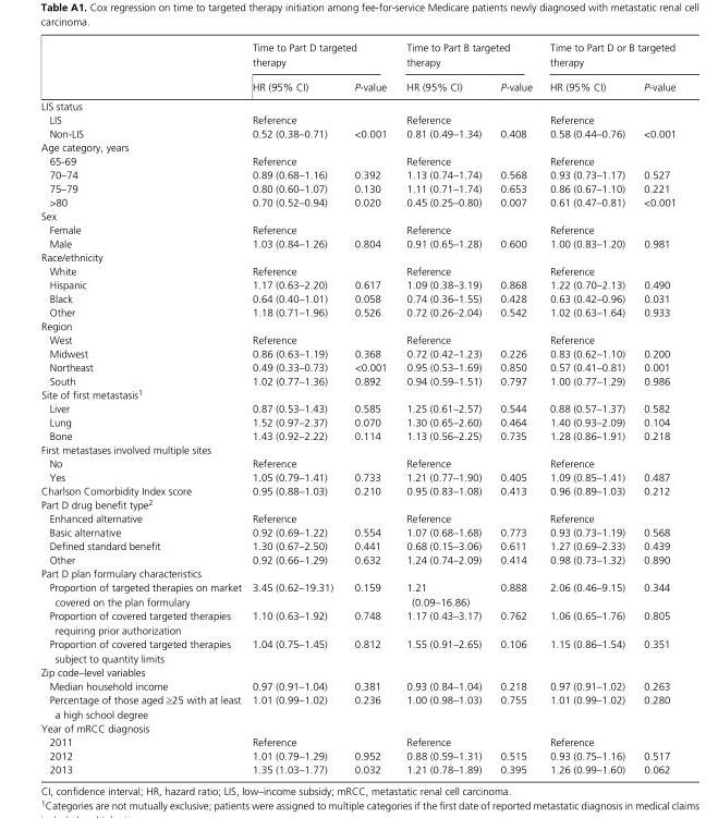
<table><thead><tr><td rowspan="2"></td><td colspan="2">Time to Part D targeted therapy</td><td colspan="2">Time to Part B targeted therapy</td><td colspan="2">Time to Part D or B targeted therapy</td></tr><tr><td>HR (95% CI)</td><td>P-value</td><td>HR (95% CI)</td><td>P-value</td><td>HR (95% CI)</td><td>P-value</td></tr></thead><tbody><tr><td colspan="7">LIS status</td></tr><tr><td>LIS</td><td>Reference</td><td></td><td>Reference</td><td></td><td>Reference</td><td></td></tr><tr><td>Non- LIS</td><td>0.52 (0.38–0.71)</td><td>&lt;0.001</td><td>0.81 (0.49–1.34)</td><td>0.408</td><td>0.58 (0.44–0.76)</td><td>&lt;0.001</td></tr><tr><td colspan="7">Age category, years</td></tr><tr><td>65-69</td><td>Reference</td><td></td><td>Reference</td><td></td><td>Reference</td><td></td></tr><tr><td>70–74</td><td>0.89 (0.68–1.16)</td><td>0.392</td><td>1.13 (0.74–1.74)</td><td>0.568</td><td>0.93 (0.73–1.17)</td><td>0.527</td></tr><tr><td>75–79</td><td>0.80 (0.60–1.07)</td><td>0.130</td><td>1.11 (0.71–1.74)</td><td>0.653</td><td>0.86 (0.67–1.10)</td><td>0.221</td></tr><tr><td>&gt;80</td><td>0.70 (0.52–0.94)</td><td>0.020</td><td>0.45 (0.25–0.80)</td><td>0.007</td><td>0.61 (0.47–0.81)</td><td>&lt;0.001</td></tr><tr><td colspan="7">Sex</td></tr><tr><td>Female</td><td>Reference</td><td></td><td>Reference</td><td></td><td>Reference</td><td></td></tr><tr><td>Male</td><td>1.03 (0.84–1.26)</td><td>0.804</td><td>0.91 (0.65–1.28)</td><td>0.600</td><td>1.00 (0.83–1.20)</td><td>0.981</td></tr><tr><td colspan="7">Race/ethnicity</td></tr><tr><td>White</td><td>Reference</td><td></td><td>Reference</td><td></td><td>Reference</td><td></td></tr><tr><td>Hispanic</td><td>1.17 (0.63–2.20)</td><td>0.617</td><td>1.09 (0.38–3.19)</td><td>0.868</td><td>1.22 (0.70–2.13)</td><td>0.490</td></tr><tr><td>Black</td><td>0.64 (0.40–1.01)</td><td>0.058</td><td>0.74 (0.36–1.55)</td><td>0.428</td><td>0.63 (0.42–0.96)</td><td>0.031</td></tr><tr><td>Other</td><td>1.18 (0.71–1.96)</td><td>0.526</td><td>0.72 (0.26–2.04)</td><td>0.542</td><td>1.02 (0.63–1.64)</td><td>0.933</td></tr><tr><td colspan="7">Region</td></tr><tr><td>West</td><td>Reference</td><td></td><td>Reference</td><td></td><td>Reference</td><td></td></tr><tr><td>Midwest</td><td>0.86 (0.63–1.19)</td><td>0.368</td><td>0.72 (0.42–1.23)</td><td>0.226</td><td>0.83 (0.62–1.10)</td><td>0.200</td></tr><tr><td>Northeast</td><td>0.49 (0.33–0.73)</td><td>&lt;0.001</td><td>0.95 (0.53–1.69)</td><td>0.850</td><td>0.57 (0.41–0.81)</td><td>0.001</td></tr><tr><td>South</td><td>1.02 (0.77–1.36)</td><td>0.892</td><td>0.94 (0.59–1.51)</td><td>0.797</td><td>1.00 (0.77–1.29)</td><td>0.986</td></tr><tr><td colspan="7">Site of first metastasis1</td></tr><tr><td>Liver</td><td>0.87 (0.53–1.43)</td><td>0.585</td><td>1.25 (0.61–2.57)</td><td>0.544</td><td>0.88 (0.57–1.37)</td><td>0.582</td></tr><tr><td>Lung</td><td>1.52 (0.97–2.37)</td><td>0.070</td><td>1.30 (0.65–2.60)</td><td>0.464</td><td>1.40 (0.93–2.09)</td><td>0.104</td></tr><tr><td>Bone</td><td>1.43 (0.92–2.22)</td><td>0.114</td><td>1.13 (0.56–2.25)</td><td>0.735</td><td>1.28 (0.86–1.91)</td><td>0.218</td></tr><tr><td colspan="7">First metastases involved multiple sites</td></tr><tr><td>No</td><td>Reference</td><td></td><td>Reference</td><td></td><td>Reference</td><td></td></tr><tr><td>Yes</td><td>1.05 (0.79–1.41)</td><td>0.733</td><td>1.21 (0.77–1.90)</td><td>0.405</td><td>1.09 (0.85–1.41)</td><td>0.487</td></tr><tr><td>Charlson Comorbidity Index score</td><td>0.95 (0.88–1.03)</td><td>0.210</td><td>0.95 (0.83–1.08)</td><td>0.413</td><td>0.96 (0.89–1.03)</td><td>0.212</td></tr><tr><td colspan="7">Part D drug benefit type2</td></tr><tr><td>Enhanced alternative</td><td>Reference</td><td></td><td>Reference</td><td></td><td>Reference</td><td></td></tr><tr><td>Basic alternative</td><td>0.92 (0.69–1.22)</td><td>0.554</td><td>1.07 (0.68–1.68)</td><td>0.773</td><td>0.93 (0.73–1.19)</td><td>0.568</td></tr><tr><td>Defined standard benefit</td><td>1.30 (0.67–2.50)</td><td>0.441</td><td>0.68 (0.15–3.06)</td><td>0.611</td><td>1.27 (0.69–2.33)</td><td>0.439</td></tr><tr><td>Other</td><td>0.92 (0.66–1.29)</td><td>0.632</td><td>1.24 (0.74–2.09)</td><td>0.414</td><td>0.98 (0.73–1.32)</td><td>0.890</td></tr><tr><td colspan="7">Part D plan formulary characteristics</td></tr><tr><td>Proportion of targeted therapies on market covered on the plan formulary</td><td>3.45 (0.62–19.31)</td><td>0.159</td><td>1.21 (0.09–16.86)</td><td>0.888</td><td>2.06 (0.46–9.15)</td><td>0.344</td></tr><tr><td>Proportion of covered targeted therapies requiring prior authorization</td><td>1.10 (0.63–1.92)</td><td>0.748</td><td>1.17 (0.43–3.17)</td><td>0.762</td><td>1.06 (0.65–1.76)</td><td>0.805</td></tr><tr><td>Proportion of covered targeted therapies subject to quantity limits</td><td>1.04 (0.75–1.45)</td><td>0.812</td><td>1.55 (0.91–2.65)</td><td>0.106</td><td>1.15 (0.86–1.54)</td><td>0.351</td></tr><tr><td colspan="7">Zip code–level variables</td></tr><tr><td>Median household income</td><td>0.97 (0.91–1.04)</td><td>0.381</td><td>0.93 (0.84–1.04)</td><td>0.218</td><td>0.97 (0.91–1.02)</td><td>0.263</td></tr><tr><td>Percentage of those aged ≥25 with at least a high school degree</td><td>1.01 (0.99–1.02)</td><td>0.236</td><td>1.00 (0.98–1.03)</td><td>0.755</td><td>1.01 (0.99–1.02)</td><td>0.280</td></tr><tr><td colspan="7">Year of mRCC diagnosis</td></tr><tr><td>2011</td><td>Reference</td><td></td><td>Reference</td><td></td><td>Reference</td><td></td></tr><tr><td>2012</td><td>1.01 (0.79–1.29)</td><td>0.952</td><td>0.88 (0.59–1.31)</td><td>0.515</td><td>0.93 (0.75–1.16)</td><td>0.517</td></tr><tr><td>2013</td><td>1.35 (1.03–1.77)</td><td>0.032</td><td>1.21 (0.78–1.89)</td><td>0.395</td><td>1.26 (0.99–1.60)</td><td>0.062</td></tr></tbody></table>